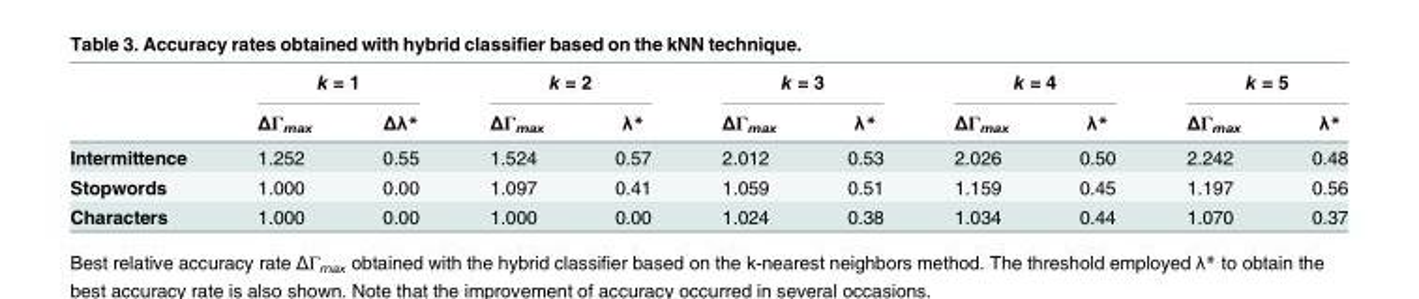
<table><thead><tr><td rowspan="2"></td><td colspan="2">k = 1</td><td colspan="2">k = 2</td><td colspan="2">k = 3</td><td colspan="2">k = 4</td><td colspan="2">k = 5</td></tr><tr><td>ΔΓ<sub>max</sub></td><td>Δλ*</td><td>ΔΓ<sub>max</sub></td><td>λ*</td><td>ΔΓ<sub>max</sub></td><td>λ*</td><td>ΔΓ<sub>max</sub></td><td>λ*</td><td>ΔΓ<sub>max</sub></td><td>λ*</td></tr></thead><tbody><tr><td>Intermittence</td><td>1.252</td><td>0.55</td><td>1.524</td><td>0.57</td><td>2.012</td><td>0.53</td><td>2.026</td><td>0.50</td><td>2.242</td><td>0.48</td></tr><tr><td>Stopwords</td><td>1.000</td><td>0.00</td><td>1.097</td><td>0.41</td><td>1.059</td><td>0.51</td><td>1.159</td><td>0.45</td><td>1.197</td><td>0.56</td></tr><tr><td>Characters</td><td>1.000</td><td>0.00</td><td>1.000</td><td>0.00</td><td>1.024</td><td>0.38</td><td>1.034</td><td>0.44</td><td>1.070</td><td>0.37</td></tr></tbody></table>